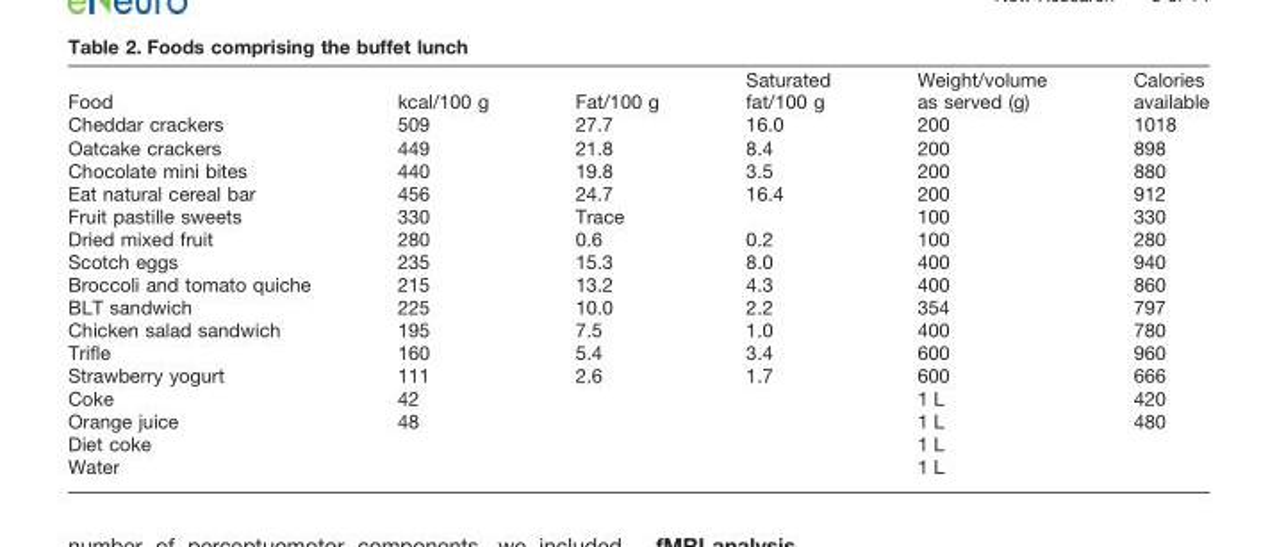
<table><thead><tr><td>Food</td><td>kcal/100 g</td><td>Fat/100 g</td><td>Saturated fat/100 g</td><td>Weight/volume as served (g)</td><td>Calories available</td></tr></thead><tbody><tr><td>Cheddar crackers</td><td>509</td><td>27.7</td><td>16.0</td><td>200</td><td>1018</td></tr><tr><td>Oatcake crackers</td><td>449</td><td>21.8</td><td>8.4</td><td>200</td><td>898</td></tr><tr><td>Chocolate mini bites</td><td>440</td><td>19.8</td><td>3.5</td><td>200</td><td>880</td></tr><tr><td>Eat natural cereal bar</td><td>456</td><td>24.7</td><td>16.4</td><td>200</td><td>912</td></tr><tr><td>Fruit pastille sweets</td><td>330</td><td>Trace</td><td></td><td>100</td><td>330</td></tr><tr><td>Dried mixed fruit</td><td>280</td><td>0.6</td><td>0.2</td><td>100</td><td>280</td></tr><tr><td>Scotch eggs</td><td>235</td><td>15.3</td><td>8.0</td><td>400</td><td>940</td></tr><tr><td>Broccoli and tomato quiche</td><td>215</td><td>13.2</td><td>4.3</td><td>400</td><td>860</td></tr><tr><td>BLT sandwich</td><td>225</td><td>10.0</td><td>2.2</td><td>354</td><td>797</td></tr><tr><td>Chicken salad sandwich</td><td>195</td><td>7.5</td><td>1.0</td><td>400</td><td>780</td></tr><tr><td>Trifle</td><td>160</td><td>5.4</td><td>3.4</td><td>600</td><td>960</td></tr><tr><td>Strawberry yogurt</td><td>111</td><td>2.6</td><td>1.7</td><td>600</td><td>666</td></tr><tr><td>Coke</td><td>42</td><td></td><td></td><td>1 L</td><td>420</td></tr><tr><td>Orange juice</td><td>48</td><td></td><td></td><td>1 L</td><td>480</td></tr><tr><td>Diet coke</td><td></td><td></td><td></td><td>1 L</td><td></td></tr><tr><td>Water</td><td></td><td></td><td></td><td>1 L</td><td></td></tr></tbody></table>